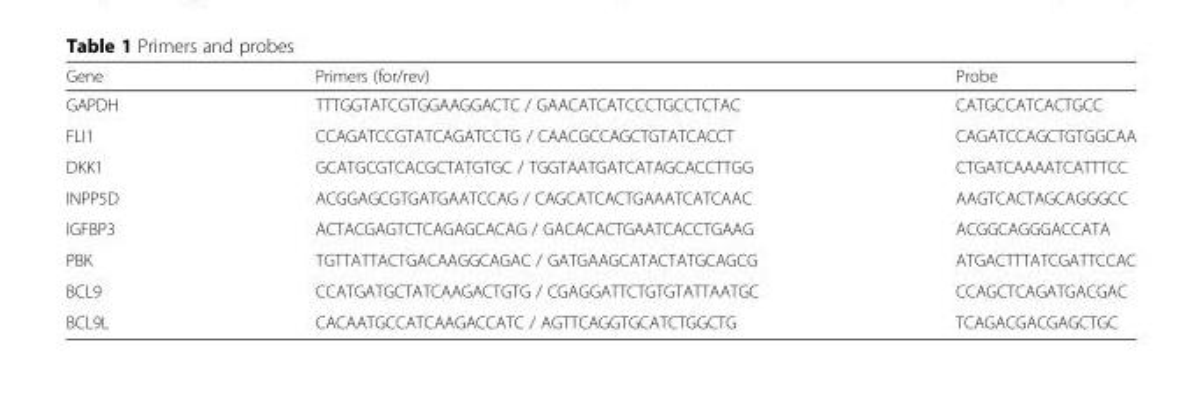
<table><thead><tr><td>Gene</td><td>Primers (for/rev)</td><td>Probe</td></tr></thead><tbody><tr><td>GAPDH</td><td>TTTGGTATCGTGGAAGGACTC / GAACATCATCCCTGCCTCTAC</td><td>CATGCCATCACTGCC</td></tr><tr><td>FLI1</td><td>CCAGATCCGTATCAGATCCTG / CAACGCCAGCTGTATCACCT</td><td>CAGATCCAGCTGTGGCAA</td></tr><tr><td>DKK1</td><td>GCATGCGTCACGCTATGTGC / TGGTAATGATCATAGCACCTTGG</td><td>CTGATCAAAATCATTTCC</td></tr><tr><td>INPP5D</td><td>ACGGAGCGTGATGAATCCAG / CAGCATCACTGAAATCATCAAC</td><td>AAGTCACTAGCAGGGCC</td></tr><tr><td>IGFBP3</td><td>ACTACGAGTCTCAGAGCACAG / GACACACTGAATCACCTGAAG</td><td>ACGGCAGGGACCATA</td></tr><tr><td>PBK</td><td>TGTTATTACTGACAAGGCAGAC / GATGAAGCATACTATGCAGCG</td><td>ATGACTTTATCGATTCCAC</td></tr><tr><td>BCL9</td><td>CCATGATGCTATCAAGACTGTG / CGAGGATTCTGTGTATTAATGC</td><td>CCAGCTCAGATGACGAC</td></tr><tr><td>BCL9L</td><td>CACAATGCCATCAAGACCATC / AGTTCAGGTGCATCTGGCTG</td><td>TCAGACGACGAGCTGC</td></tr></tbody></table>